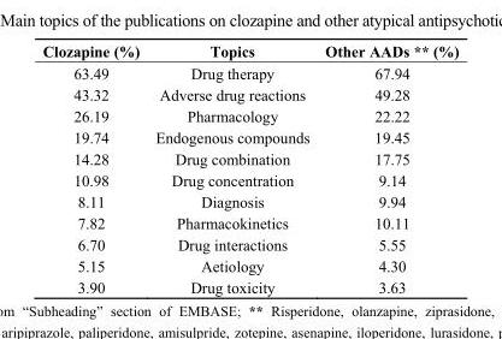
<table><thead><tr><td>Clozapine (%)</td><td>Topics</td><td>Other AADs ** (%)</td></tr></thead><tbody><tr><td>63.49</td><td>Drug therapy</td><td>67.94</td></tr><tr><td>43.32</td><td>Adverse drug reactions</td><td>49.28</td></tr><tr><td>26.19</td><td>Pharmacology</td><td>22.22</td></tr><tr><td>19.74</td><td>Endogenous compounds</td><td>19.45</td></tr><tr><td>14.28</td><td>Drug combination</td><td>17.75</td></tr><tr><td>10.98</td><td>Drug concentration</td><td>9.14</td></tr><tr><td>8.11</td><td>Diagnosis</td><td>9.94</td></tr><tr><td>7.82</td><td>Pharmacokinetics</td><td>10.11</td></tr><tr><td>6.70</td><td>Drug interactions</td><td>5.55</td></tr><tr><td>5.15</td><td>Aetiology</td><td>4.30</td></tr><tr><td>3.90</td><td>Drug toxicity</td><td>3.63</td></tr></tbody></table>